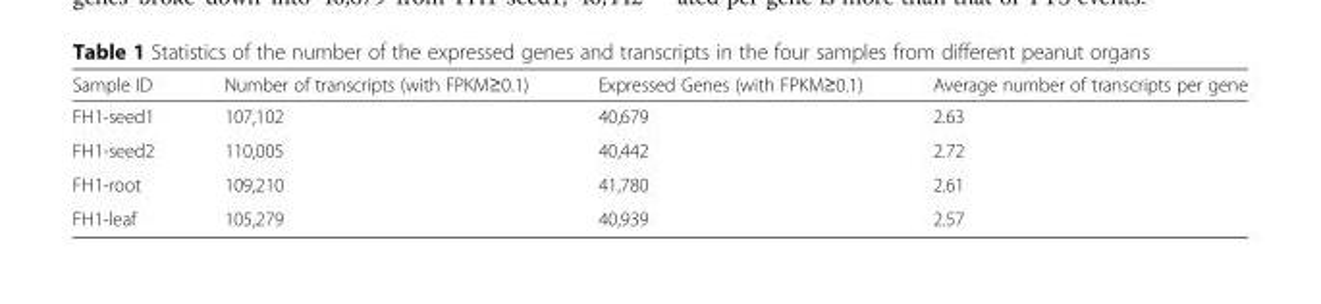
<table><thead><tr><td>Sample ID</td><td>Number of transcripts (with FPKM≥0.1)</td><td>Expressed Genes (with FPKM≥0.1)</td><td>Average number of transcripts per gene</td></tr></thead><tbody><tr><td>FH1-seed1</td><td>107,102</td><td>40,679</td><td>2.63</td></tr><tr><td>FH1-seed2</td><td>110,005</td><td>40,442</td><td>2.72</td></tr><tr><td>FH1-root</td><td>109,210</td><td>41,780</td><td>2.61</td></tr><tr><td>FH1-leaf</td><td>105,279</td><td>40,939</td><td>2.57</td></tr></tbody></table>